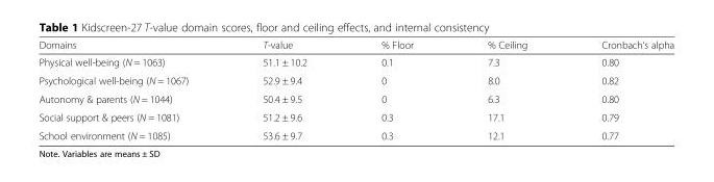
<table><thead><tr><td>Domains</td><td>T-value</td><td>% Floor</td><td>% Ceiling</td><td>Cronbach’s alpha</td></tr></thead><tbody><tr><td>Physical well-being (N = 1063)</td><td>51.1 ± 10.2</td><td>0.1</td><td>7.3</td><td>0.80</td></tr><tr><td>Psychological well-being (N = 1067)</td><td>52.9 ± 9.4</td><td>0</td><td>8.0</td><td>0.82</td></tr><tr><td>Autonomy &amp; parents (N = 1044)</td><td>50.4 ± 9.5</td><td>0</td><td>6.3</td><td>0.80</td></tr><tr><td>Social support &amp; peers (N = 1081)</td><td>51.2 ± 9.6</td><td>0.3</td><td>17.1</td><td>0.79</td></tr><tr><td>School environment (N = 1085)</td><td>53.6 ± 9.7</td><td>0.3</td><td>12.1</td><td>0.77</td></tr></tbody></table>